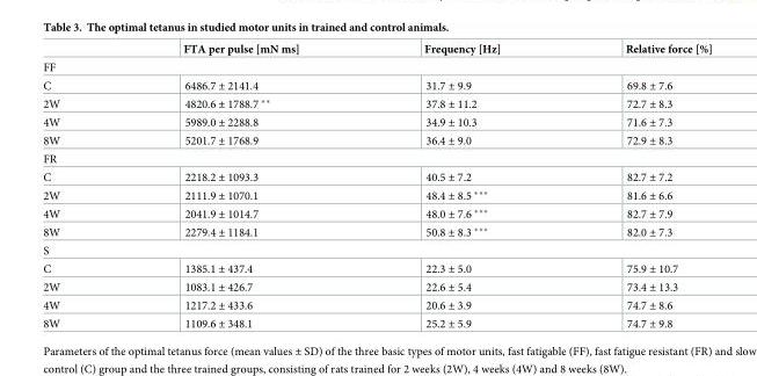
<table><thead><tr><td></td><td>FTA per pulse [mN ms]</td><td>Frequency [Hz]</td><td>Relative force [%]</td></tr></thead><tbody><tr><td colspan="4">FF</td></tr><tr><td>C</td><td>6486.7 ± 2141.4</td><td>31.7 ± 9.9</td><td>69.8 ± 7.6</td></tr><tr><td>2W</td><td>4820.6 ± 1788.7 **</td><td>37.8 ± 11.2</td><td>72.7 ± 8.3</td></tr><tr><td>4W</td><td>5989.0 ± 2288.8</td><td>34.9 ± 10.3</td><td>71.6 ± 7.3</td></tr><tr><td>8W</td><td>5201.7 ± 1768.9</td><td>36.4 ± 9.0</td><td>72.9 ± 8.3</td></tr><tr><td colspan="4">FR</td></tr><tr><td>C</td><td>2218.2 ± 1093.3</td><td>40.5 ± 7.2</td><td>82.7 ± 7.2</td></tr><tr><td>2W</td><td>2111.9 ± 1070.1</td><td>48.4 ± 8.5 ***</td><td>81.6 ± 6.6</td></tr><tr><td>4W</td><td>2041.9 ± 1014.7</td><td>48.0 ± 7.6 ***</td><td>82.7 ± 7.9</td></tr><tr><td>8W</td><td>2279.4 ± 1184.1</td><td>50.8 ± 8.3 ***</td><td>82.0 ± 7.3</td></tr><tr><td colspan="4">S</td></tr><tr><td>C</td><td>1385.1 ± 437.4</td><td>22.3 ± 5.0</td><td>75.9 ± 10.7</td></tr><tr><td>2W</td><td>1083.1 ± 426.7</td><td>22.6 ± 5.4</td><td>73.4 ± 13.3</td></tr><tr><td>4W</td><td>1217.2 ± 433.6</td><td>20.6 ± 3.9</td><td>74.7 ± 8.6</td></tr><tr><td>8W</td><td>1109.6 ± 348.1</td><td>25.2 ± 5.9</td><td>74.7 ± 9.8</td></tr></tbody></table>